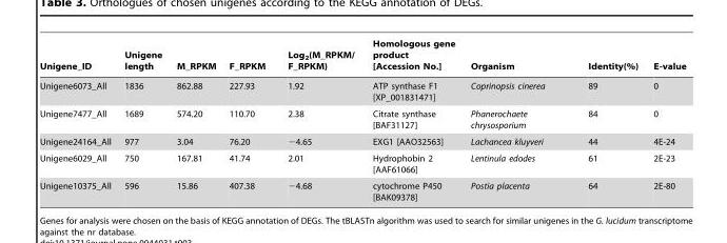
<table><thead><tr><td>Unigene_ID</td><td>Unigene length</td><td>M_RPKM</td><td>F_RPKM</td><td>Log<sub>2</sub>(M_RPKM/ F_RPKM)</td><td>Homologous gene product [Accession No.]</td><td>Organism</td><td>Identity(%)</td><td>E-value</td></tr></thead><tbody><tr><td>Unigene6073_All</td><td>1836</td><td>862.88</td><td>227.93</td><td>1.92</td><td>ATP synthase F1 [XP_001831471]</td><td>Coprinopsis cinerea</td><td>89</td><td>0</td></tr><tr><td>Unigene7477_All</td><td>1689</td><td>574.20</td><td>110.70</td><td>2.38</td><td>Citrate synthase [BAF31127]</td><td>Phanerochaete chrysosporium</td><td>84</td><td>0</td></tr><tr><td>Unigene24164_All</td><td>977</td><td>3.04</td><td>76.20</td><td>−4.65</td><td>EXG1 [AAO32563]</td><td>Lachancea kluyveri</td><td>44</td><td>4E-24</td></tr><tr><td>Unigene6029_All</td><td>750</td><td>167.81</td><td>41.74</td><td>2.01</td><td>Hydrophobin 2 [AAF61066]</td><td>Lentinula edodes</td><td>61</td><td>2E-23</td></tr><tr><td>Unigene10375_All</td><td>596</td><td>15.86</td><td>407.38</td><td>−4.68</td><td>cytochrome P450 [BAK09378]</td><td>Postia placenta</td><td>64</td><td>2E-80</td></tr></tbody></table>